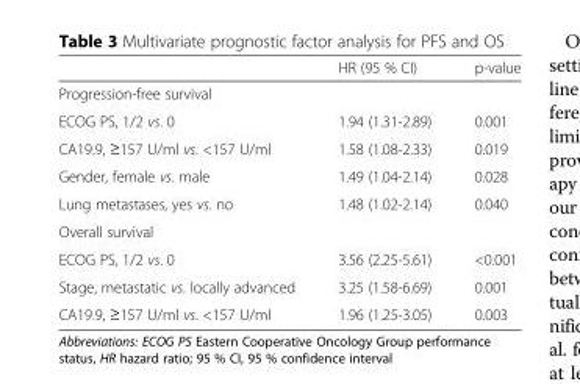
<table><thead><tr><td></td><td>HR (95 % CI)</td><td>p-value</td></tr></thead><tbody><tr><td colspan="3">Progression-free survival</td></tr><tr><td>ECOG PS, 1/2 vs. 0</td><td>1.94 (1.31-2.89)</td><td>0.001</td></tr><tr><td>CA19.9, ≥157 U/ml vs. &lt;157 U/ml</td><td>1.58 (1.08-2.33)</td><td>0.019</td></tr><tr><td>Gender, female vs. male</td><td>1.49 (1.04-2.14)</td><td>0.028</td></tr><tr><td>Lung metastases, yes vs. no</td><td>1.48 (1.02-2.14)</td><td>0.040</td></tr><tr><td colspan="3">Overall survival</td></tr><tr><td>ECOG PS, 1/2 vs. 0</td><td>3.56 (2.25-5.61)</td><td>&lt;0.001</td></tr><tr><td>Stage, metastatic vs. locally advanced</td><td>3.25 (1.58-6.69)</td><td>0.001</td></tr><tr><td>CA19.9, ≥157 U/ml vs. &lt;157 U/ml</td><td>1.96 (1.25-3.05)</td><td>0.003</td></tr></tbody></table>